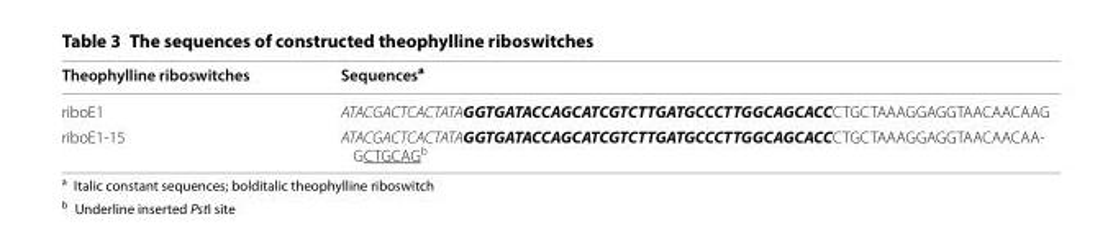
<table><thead><tr><td>Theophylline riboswitches</td><td>Sequences<sup>a</sup></td></tr></thead><tbody><tr><td>riboE1</td><td>ATACGACTCACTATAGGTGATACCAGCATCGTCTTGATGCCCTTGGCAGCACCCTGCTAAAGGAGGTAACAACAAG</td></tr><tr><td>riboE1-15</td><td>ATACGACTCACTATAGGTGATACCAGCATCGTCTTGATGCCCTTGGCAGCACCCTGCTAAAGGAGGTAACAACAA- GCTGCAGb</td></tr></tbody></table>